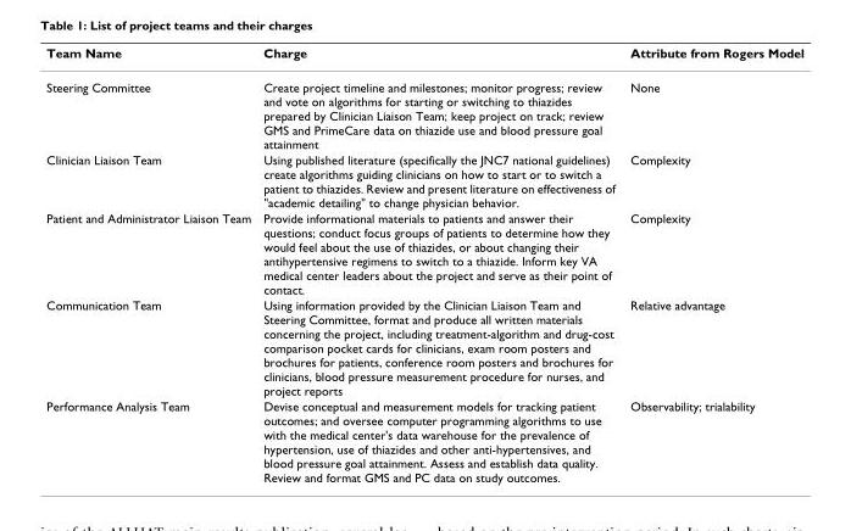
<table><thead><tr><td>Team Name</td><td>Charge</td><td>Attribute from Rogers Model</td></tr></thead><tbody><tr><td>Steering Committee</td><td>Create project timeline and milestones; monitor progress; review and vote on algorithms for starting or switching to thiazides prepared by Clinician Liaison Team; keep project on track; review GMS and PrimeCare data on thiazide use and blood pressure goal attainment</td><td>None</td></tr><tr><td>Clinician Liaison Team</td><td>Using published literature (specifically the JNC7 national guidelines) create algorithms guiding clinicians on how to start or to switch a patient to thiazides. Review and present literature on effectiveness of &quot;academic detailing&quot; to change physician behavior.</td><td>Complexity</td></tr><tr><td>Patient and Administrator Liaison Team</td><td>Provide informational materials to patients and answer their questions; conduct focus groups of patients to determine how they would feel about the use of thiazides, or about changing their antihypertensive regimens to switch to a thiazide. Inform key VA medical center leaders about the project and serve as their point of contact.</td><td>Complexity</td></tr><tr><td>Communication Team</td><td>Using information provided by the Clinician Liaison Team and Steering Committee, format and produce all written materials concerning the project, including treatment-algorithm and drug-cost comparison pocket cards for clinicians, exam room posters and brochures for patients, conference room posters and brochures for clinicians, blood pressure measurement procedure for nurses, and project reports</td><td>Relative advantage</td></tr><tr><td>Performance Analysis Team</td><td>Devise conceptual and measurement models for tracking patient outcomes; and oversee computer programming algorithms to use with the medical center&#x27;s data warehouse for the prevalence of hypertension, use of thiazides and other anti-hypertensives, and blood pressure goal attainment. Assess and establish data quality. Review and format GMS and PC data on study outcomes.</td><td>Observability; trialability</td></tr></tbody></table>